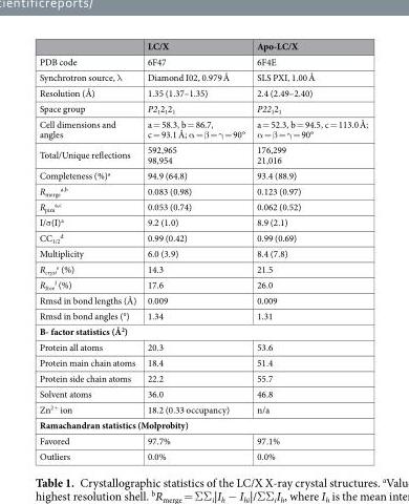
<table><thead><tr><td></td><td>LC/X</td><td>Apo-LC/X</td></tr></thead><tbody><tr><td>PDB code</td><td>6F47</td><td>6F4E</td></tr><tr><td>Synchrotron source, λ</td><td>Diamond I02, 0.979 Å</td><td>SLS PXI, 1.00 Å</td></tr><tr><td>Resolution (Å)</td><td>1.35 (1.37–1.35)</td><td>2.4 (2.49–2.40)</td></tr><tr><td>Space group</td><td>P2<sub>1</sub>2<sub>1</sub>2<sub>1</sub></td><td>P22<sub>1</sub>2<sub>1</sub></td></tr><tr><td>Cell dimensions and angles</td><td>a = 58.3, b = 86.7, c = 93.1 Å; α = β = γ = 90°</td><td>a = 52.3, b = 94.5, c = 113.0 Å; α = β = γ = 90°</td></tr><tr><td>Total/Unique reflections</td><td>592,965 98,954</td><td>176,299 21,016</td></tr><tr><td>Completeness (%)<sup>a</sup></td><td>94.9 (64.8)</td><td>93.4 (88.9)</td></tr><tr><td>R<sub>merge</sub> <sup>a,b</sup></td><td>0.083 (0.98)</td><td>0.123 (0.97)</td></tr><tr><td>R<sub>pim</sub> <sup>a,c</sup></td><td>0.053 (0.74)</td><td>0.062 (0.52)</td></tr><tr><td>I/σ(I)<sup>a</sup></td><td>9.2 (1.0)</td><td>8.9 (2.1)</td></tr><tr><td>CC<sub>1/2</sub> <sup>d</sup></td><td>0.99 (0.42)</td><td>0.99 (0.69)</td></tr><tr><td>Multiplicity</td><td>6.0 (3.9)</td><td>8.4 (7.8)</td></tr><tr><td>R<sub>cryst</sub> <sup>e</sup> (%)</td><td>14.3</td><td>21.5</td></tr><tr><td>R<sub>free</sub> <sup>f</sup> (%)</td><td>17.6</td><td>26.0</td></tr><tr><td>Rmsd in bond lengths (Å)</td><td>0.009</td><td>0.009</td></tr><tr><td>Rmsd in bond angles (°)</td><td>1.34</td><td>1.31</td></tr><tr><td colspan="3">B- factor statistics (Å<sup>2</sup>)</td></tr><tr><td>Protein all atoms</td><td>20.3</td><td>53.6</td></tr><tr><td>Protein main chain atoms</td><td>18.4</td><td>51.4</td></tr><tr><td>Protein side chain atoms</td><td>22.2</td><td>55.7</td></tr><tr><td>Solvent atoms</td><td>36.0</td><td>46.8</td></tr><tr><td>Zn<sup>2+</sup> ion</td><td>18.2 (0.33 occupancy)</td><td>n/a</td></tr><tr><td colspan="3">Ramachandran statistics (Molprobity)</td></tr><tr><td>Favored</td><td>97.7%</td><td>97.1%</td></tr><tr><td>Outliers</td><td>0.0%</td><td>0.0%</td></tr></tbody></table>